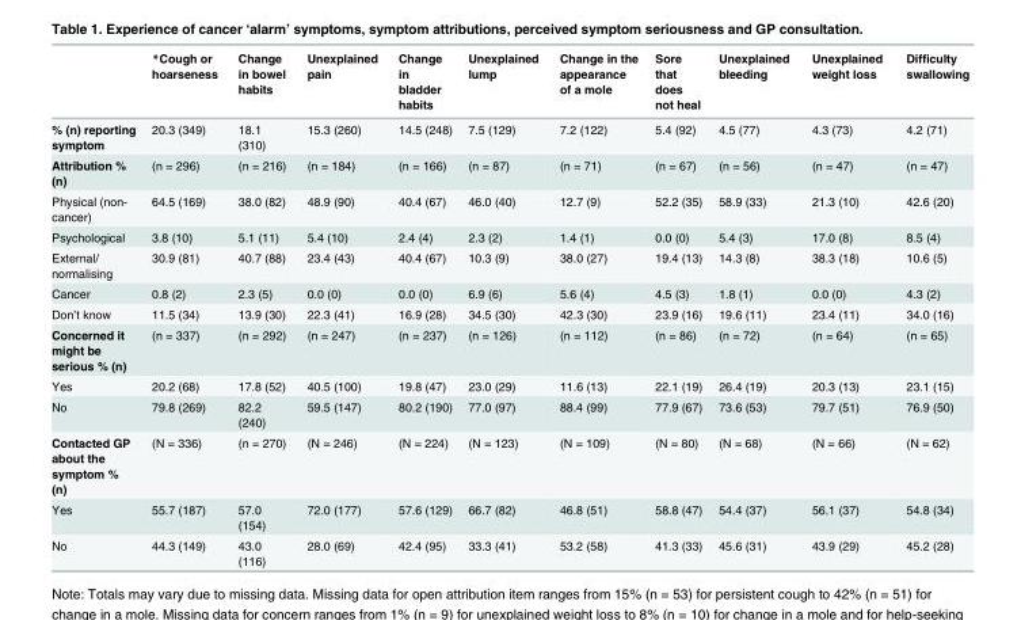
<table><thead><tr><td></td><td>*Cough or hoarseness</td><td>Change in bowel habits</td><td>Unexplained pain</td><td>Change in bladder habits</td><td>Unexplained lump</td><td>Change in the appearance of a mole</td><td>Sore that does not heal</td><td>Unexplained bleeding</td><td>Unexplained weight loss</td><td>Difficulty swallowing</td></tr></thead><tbody><tr><td>% (n) reporting symptom</td><td>20.3 (349)</td><td>18.1 (310)</td><td>15.3 (260)</td><td>14.5 (248)</td><td>7.5 (129)</td><td>7.2 (122)</td><td>5.4 (92)</td><td>4.5 (77)</td><td>4.3 (73)</td><td>4.2 (71)</td></tr><tr><td>Attribution % (n)</td><td>(n = 296)</td><td>(n = 216)</td><td>(n = 184)</td><td>(n = 166)</td><td>(n = 87)</td><td>(n = 71)</td><td>(n = 67)</td><td>(n = 56)</td><td>(n = 47)</td><td>(n = 47)</td></tr><tr><td>Physical (non- cancer)</td><td>64.5 (169)</td><td>38.0 (82)</td><td>48.9 (90)</td><td>40.4 (67)</td><td>46.0 (40)</td><td>12.7 (9)</td><td>52.2 (35)</td><td>58.9 (33)</td><td>21.3 (10)</td><td>42.6 (20)</td></tr><tr><td>Psychological</td><td>3.8 (10)</td><td>5.1 (11)</td><td>5.4 (10)</td><td>2.4 (4)</td><td>2.3 (2)</td><td>1.4 (1)</td><td>0.0 (0)</td><td>5.4 (3)</td><td>17.0 (8)</td><td>8.5 (4)</td></tr><tr><td>External/ normalising</td><td>30.9 (81)</td><td>40.7 (88)</td><td>23.4 (43)</td><td>40.4 (67)</td><td>10.3 (9)</td><td>38.0 (27)</td><td>19.4 (13)</td><td>14.3 (8)</td><td>38.3 (18)</td><td>10.6 (5)</td></tr><tr><td>Cancer</td><td>0.8 (2)</td><td>2.3 (5)</td><td>0.0 (0)</td><td>0.0 (0)</td><td>6.9 (6)</td><td>5.6 (4)</td><td>4.5 (3)</td><td>1.8 (1)</td><td>0.0 (0)</td><td>4.3 (2)</td></tr><tr><td>Don’t know</td><td>11.5 (34)</td><td>13.9 (30)</td><td>22.3 (41)</td><td>16.9 (28)</td><td>34.5 (30)</td><td>42.3 (30)</td><td>23.9 (16)</td><td>19.6 (11)</td><td>23.4 (11)</td><td>34.0 (16)</td></tr><tr><td>Concerned it might be serious % (n)</td><td>(n = 337)</td><td>(n = 292)</td><td>(n = 247)</td><td>(n = 237)</td><td>(n = 126)</td><td>(n = 112)</td><td>(n = 86)</td><td>(n = 72)</td><td>(n = 64)</td><td>(n = 65)</td></tr><tr><td>Yes</td><td>20.2 (68)</td><td>17.8 (52)</td><td>40.5 (100)</td><td>19.8 (47)</td><td>23.0 (29)</td><td>11.6 (13)</td><td>22.1 (19)</td><td>26.4 (19)</td><td>20.3 (13)</td><td>23.1 (15)</td></tr><tr><td>No</td><td>79.8 (269)</td><td>82.2 (240)</td><td>59.5 (147)</td><td>80.2 (190)</td><td>77.0 (97)</td><td>88.4 (99)</td><td>77.9 (67)</td><td>73.6 (53)</td><td>79.7 (51)</td><td>76.9 (50)</td></tr><tr><td>Contacted GP about the symptom % (n)</td><td>(N = 336)</td><td>(n = 270)</td><td>(N = 246)</td><td>(N = 224)</td><td>(N = 123)</td><td>(N = 109)</td><td>(N = 80)</td><td>(N = 68)</td><td>(N = 66)</td><td>(N = 62)</td></tr><tr><td>Yes</td><td>55.7 (187)</td><td>57.0 (154)</td><td>72.0 (177)</td><td>57.6 (129)</td><td>66.7 (82)</td><td>46.8 (51)</td><td>58.8 (47)</td><td>54.4 (37)</td><td>56.1 (37)</td><td>54.8 (34)</td></tr><tr><td>No</td><td>44.3 (149)</td><td>43.0 (116)</td><td>28.0 (69)</td><td>42.4 (95)</td><td>33.3 (41)</td><td>53.2 (58)</td><td>41.3 (33)</td><td>45.6 (31)</td><td>43.9 (29)</td><td>45.2 (28)</td></tr></tbody></table>